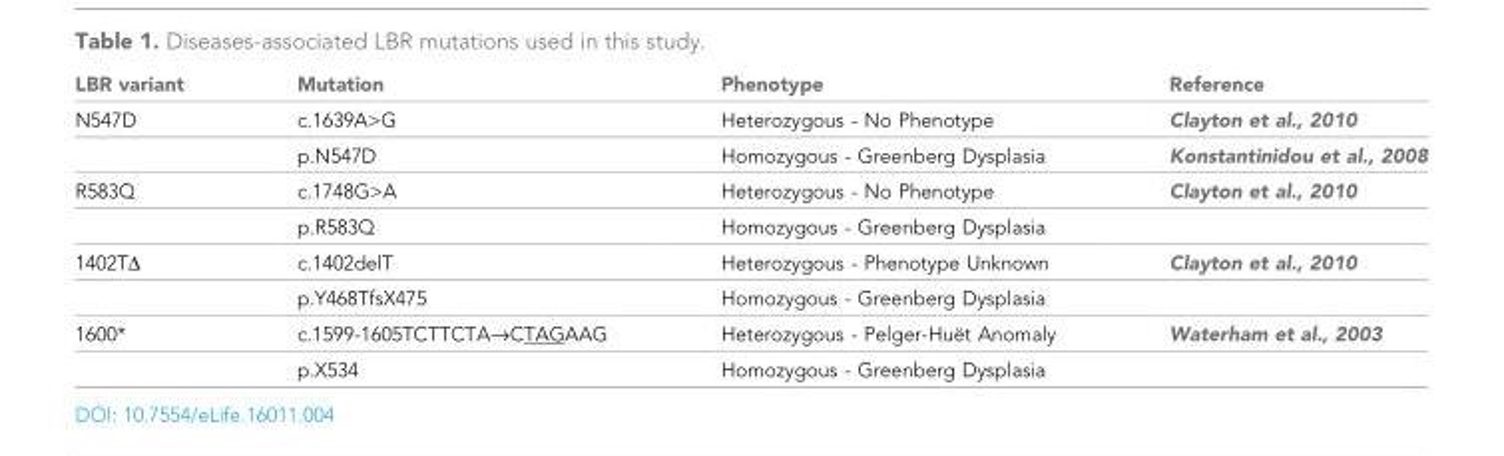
<table><thead><tr><td>LBR variant</td><td>Mutation</td><td>Phenotype</td><td>Reference</td></tr></thead><tbody><tr><td rowspan="2">N547D</td><td>c.1639A&gt;G</td><td>Heterozygous - No Phenotype</td><td>Clayton et al., 2010</td></tr><tr><td>p.N547D</td><td>Homozygous - Greenberg Dysplasia</td><td>Konstantinidou et al., 2008</td></tr><tr><td rowspan="2">R583Q</td><td>c.1748G&gt;A</td><td>Heterozygous - No Phenotype</td><td>Clayton et al., 2010</td></tr><tr><td>p.R583Q</td><td>Homozygous - Greenberg Dysplasia</td><td></td></tr><tr><td rowspan="2">1402TΔ</td><td>c.1402delT</td><td>Heterozygous - Phenotype Unknown</td><td>Clayton et al., 2010</td></tr><tr><td>p.Y468TfsX475</td><td>Homozygous - Greenberg Dysplasia</td><td></td></tr><tr><td rowspan="2">1600*</td><td>c.1599-1605TCTTCTAfiCTAGAAG</td><td>Heterozygous - Pelger-Hue¨ t Anomaly</td><td>Waterham et al., 2003</td></tr><tr><td>p.X534</td><td>Homozygous - Greenberg Dysplasia</td><td></td></tr></tbody></table>